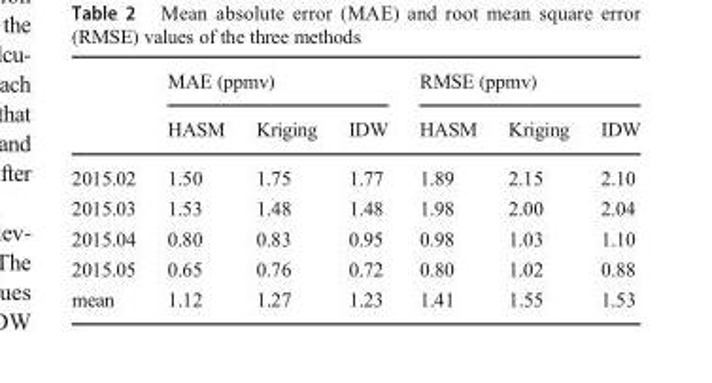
<table><thead><tr><td rowspan="2"></td><td colspan="3">MAE (ppmv)</td><td colspan="3">RMSE (ppmv)</td></tr><tr><td>HASM</td><td>Kriging</td><td>IDW</td><td>HASM</td><td>Kriging</td><td>IDW</td></tr></thead><tbody><tr><td>2015.02</td><td>1.50</td><td>1.75</td><td>1.77</td><td>1.89</td><td>2.15</td><td>2.10</td></tr><tr><td>2015.03</td><td>1.53</td><td>1.48</td><td>1.48</td><td>1.98</td><td>2.00</td><td>2.04</td></tr><tr><td>2015.04</td><td>0.80</td><td>0.83</td><td>0.95</td><td>0.98</td><td>1.03</td><td>1.10</td></tr><tr><td>2015.05</td><td>0.65</td><td>0.76</td><td>0.72</td><td>0.80</td><td>1.02</td><td>0.88</td></tr><tr><td>mean</td><td>1.12</td><td>1.27</td><td>1.23</td><td>1.41</td><td>1.55</td><td>1.53</td></tr></tbody></table>